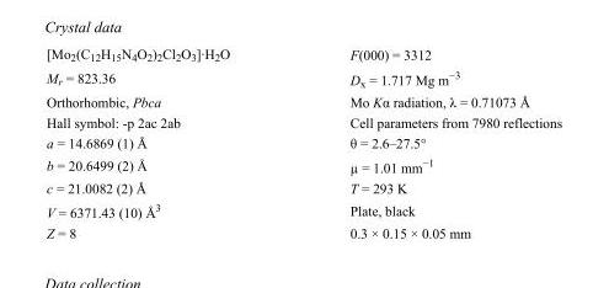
<table><tbody><tr><td>[Mo<sub>2</sub>(C<sub>12</sub>H<sub>15</sub>N<sub>4</sub>O<sub>2</sub>)<sub>2</sub>Cl<sub>2</sub>O<sub>3</sub>]·H<sub>2</sub>O</td><td>F(000) = 3312</td></tr><tr><td>M<sub>r</sub> = 823.36</td><td>D<sub>x</sub> = 1.717 Mg m<sup>−3</sup></td></tr><tr><td>Orthorhombic, Pbca</td><td>Mo Kα radiation, λ = 0.71073 Å</td></tr><tr><td>Hall symbol: -p 2ac 2ab</td><td>Cell parameters from 7980 reflections</td></tr><tr><td>a = 14.6869 (1) Å</td><td>θ = 2.6–27.5°</td></tr><tr><td>b = 20.6499 (2) Å</td><td>µ = 1.01 mm<sup>−1</sup></td></tr><tr><td>c = 21.0082 (2) Å</td><td>T = 293 K</td></tr><tr><td>V = 6371.43 (10) Å<sup>3</sup></td><td>Plate, black</td></tr><tr><td>Z = 8</td><td>0.3 × 0.15 × 0.05 mm</td></tr></tbody></table>